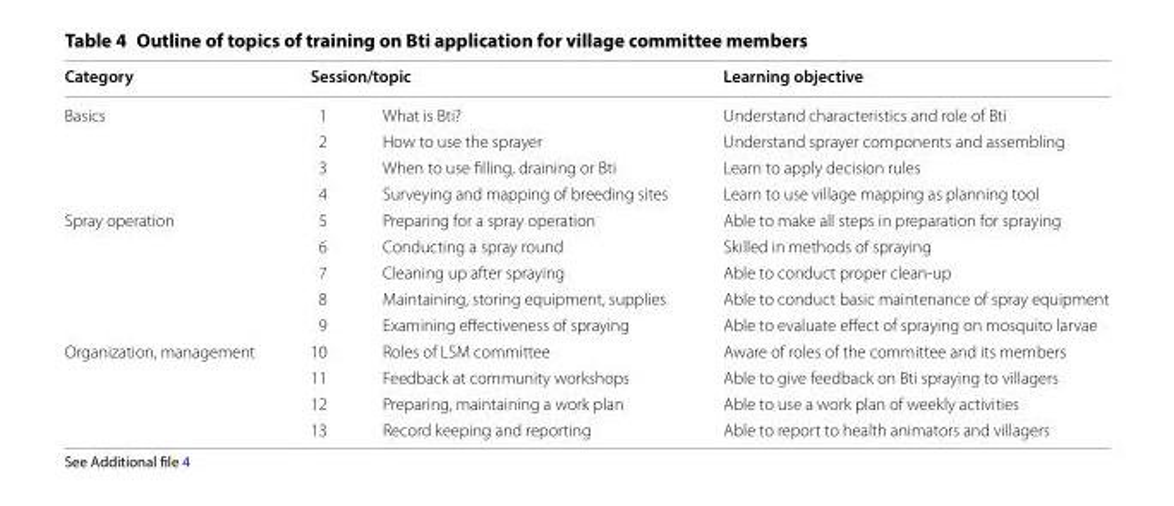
<table><thead><tr><td rowspan="2">Category Basics</td><td colspan="2">Session/topic</td><td rowspan="2">Learning objective Understand characteristics and role of Bti</td></tr><tr><td>1</td><td>What is Bti?</td></tr></thead><tbody><tr><td></td><td>2</td><td>How to use the sprayer</td><td>Understand sprayer components and assembling</td></tr><tr><td></td><td>3</td><td>When to use filling, draining or Bti</td><td>Learn to apply decision rules</td></tr><tr><td></td><td>4</td><td>Surveying and mapping of breeding sites</td><td>Learn to use village mapping as planning tool</td></tr><tr><td rowspan="5">Spray operation</td><td>5</td><td>Preparing for a spray operation</td><td>Able to make all steps in preparation for spraying</td></tr><tr><td>6</td><td>Conducting a spray round</td><td>Skilled in methods of spraying</td></tr><tr><td>7</td><td>Cleaning up after spraying</td><td>Able to conduct proper clean-up</td></tr><tr><td>8</td><td>Maintaining, storing equipment, supplies</td><td>Able to conduct basic maintenance of spray equipment</td></tr><tr><td>9</td><td>Examining effectiveness of spraying</td><td>Able to evaluate effect of spraying on mosquito larvae</td></tr><tr><td rowspan="4">Organization, management</td><td>10</td><td>Roles of LSM committee</td><td>Aware of roles of the committee and its members</td></tr><tr><td>11</td><td>Feedback at community workshops</td><td>Able to give feedback on Bti spraying to villagers</td></tr><tr><td>12</td><td>Preparing, maintaining a work plan</td><td>Able to use a work plan of weekly activities</td></tr><tr><td>13</td><td>Record keeping and reporting</td><td>Able to report to health animators and villagers</td></tr></tbody></table>